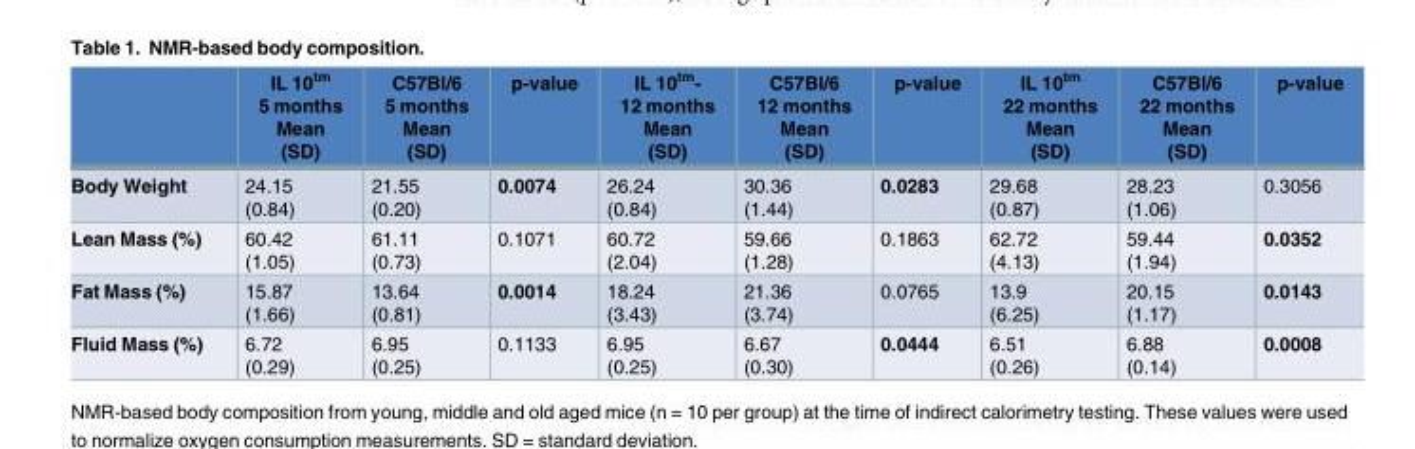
<table><thead><tr><td></td><td>IL 10<sup>tm</sup> 5 months Mean (SD)</td><td>C57Bl/6 5 months Mean (SD)</td><td>p-value</td><td>IL 10<sup>tm</sup>- 12 months Mean (SD)</td><td>C57Bl/6 12 months Mean (SD)</td><td>p-value</td><td>IL 10<sup>tm</sup> 22 months Mean (SD)</td><td>C57Bl/6 22 months Mean (SD)</td><td>p-value</td></tr></thead><tbody><tr><td>Body Weight</td><td>24.15 (0.84)</td><td>21.55 (0.20)</td><td>0.0074</td><td>26.24 (0.84)</td><td>30.36 (1.44)</td><td>0.0283</td><td>29.68 (0.87)</td><td>28.23 (1.06)</td><td>0.3056</td></tr><tr><td>Lean Mass (%)</td><td>60.42 (1.05)</td><td>61.11 (0.73)</td><td>0.1071</td><td>60.72 (2.04)</td><td>59.66 (1.28)</td><td>0.1863</td><td>62.72 (4.13)</td><td>59.44 (1.94)</td><td>0.0352</td></tr><tr><td>Fat Mass (%)</td><td>15.87 (1.66)</td><td>13.64 (0.81)</td><td>0.0014</td><td>18.24 (3.43)</td><td>21.36 (3.74)</td><td>0.0765</td><td>13.9 (6.25)</td><td>20.15 (1.17)</td><td>0.0143</td></tr><tr><td>Fluid Mass (%)</td><td>6.72 (0.29)</td><td>6.95 (0.25)</td><td>0.1133</td><td>6.95 (0.25)</td><td>6.67 (0.30)</td><td>0.0444</td><td>6.51 (0.26)</td><td>6.88 (0.14)</td><td>0.0008</td></tr></tbody></table>